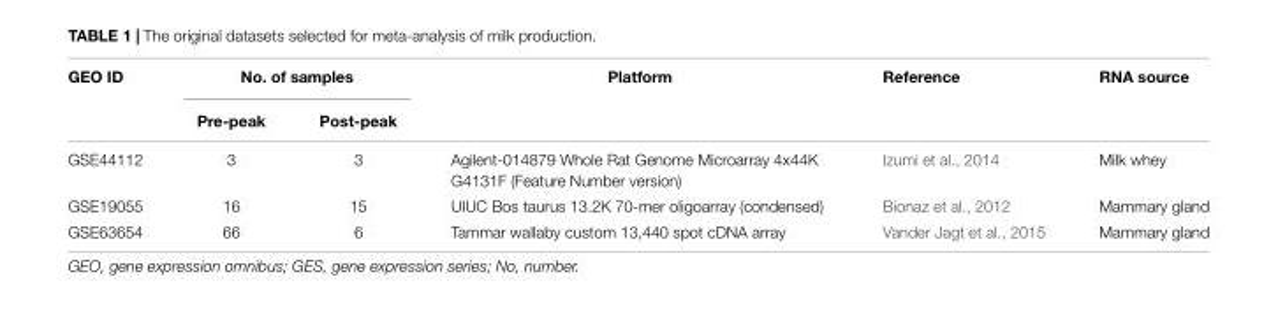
<table><thead><tr><td rowspan="2">GEO ID</td><td colspan="2">No. of samples</td><td rowspan="2">Platform</td><td rowspan="2">Reference</td><td rowspan="2">RNA source</td></tr><tr><td>Pre-peak</td><td>Post-peak</td></tr></thead><tbody><tr><td>GSE44112</td><td>3</td><td>3</td><td>Agilent-014879 Whole Rat Genome Microarray 4x44K G4131F (Feature Number version)</td><td>Izumi et al., 2014</td><td>Milk whey</td></tr><tr><td>GSE19055</td><td>16</td><td>15</td><td>UIUC Bos taurus 13.2K 70-mer oligoarray (condensed)</td><td>Bionaz et al., 2012</td><td>Mammary gland</td></tr><tr><td>GSE63654</td><td>66</td><td>6</td><td>Tammar wallaby custom 13,440 spot cDNA array</td><td>Vander Jagt et al., 2015</td><td>Mammary gland</td></tr></tbody></table>